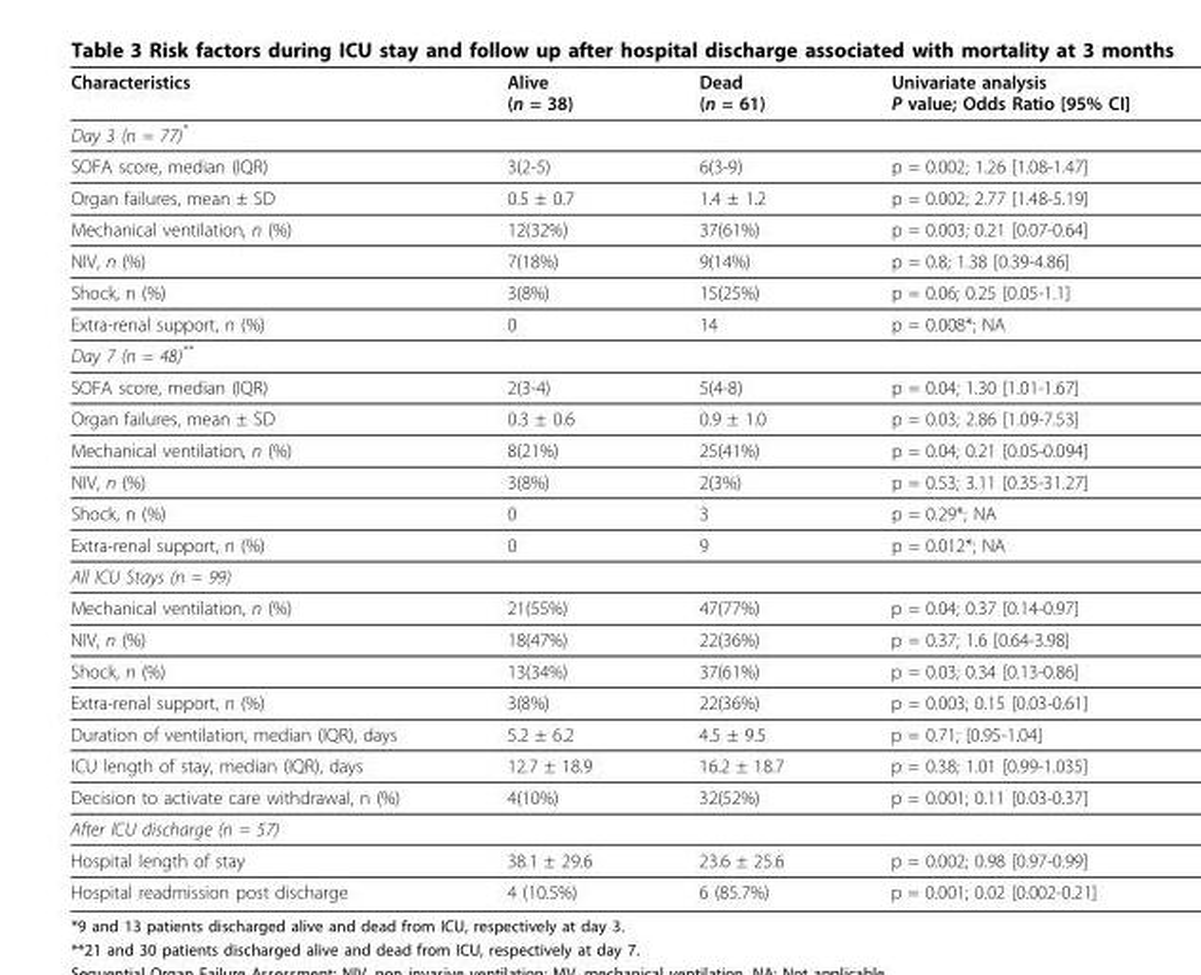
<table><thead><tr><td>Characteristics</td><td>Alive (n = 38)</td><td>Dead (n = 61)</td><td>Univariate analysis P value; Odds Ratio [95% CI]</td></tr></thead><tbody><tr><td colspan="4">Day 3 (n = 77)*</td></tr><tr><td>SOFA score, median (IQR)</td><td>3(2-5)</td><td>6(3-9)</td><td>p = 0.002; 1.26 [1.08-1.47]</td></tr><tr><td>Organ failures, mean ± SD</td><td>0.5 ± 0.7</td><td>1.4 ± 1.2</td><td>p = 0.002; 2.77 [1.48-5.19]</td></tr><tr><td>Mechanical ventilation, n (%)</td><td>12(32%)</td><td>37(61%)</td><td>p = 0.003; 0.21 [0.07-0.64]</td></tr><tr><td>NIV, n (%)</td><td>7(18%)</td><td>9(14%)</td><td>p = 0.8; 1.38 [0.39-4.86]</td></tr><tr><td>Shock, n (%)</td><td>3(8%)</td><td>15(25%)</td><td>p = 0.06; 0.25 [0.05-1.1]</td></tr><tr><td>Extra-renal support, n (%)</td><td>0</td><td>14</td><td>p = 0.008*; NA</td></tr><tr><td colspan="4">Day 7 (n = 48)**</td></tr><tr><td>SOFA score, median (IQR)</td><td>2(3-4)</td><td>5(4-8)</td><td>p = 0.04; 1.30 [1.01-1.67]</td></tr><tr><td>Organ failures, mean ± SD</td><td>0.3 ± 0.6</td><td>0.9 ± 1.0</td><td>p = 0.03; 2.86 [1.09-7.53]</td></tr><tr><td>Mechanical ventilation, n (%)</td><td>8(21%)</td><td>25(41%)</td><td>p = 0.04; 0.21 [0.05-0.094]</td></tr><tr><td>NIV, n (%)</td><td>3(8%)</td><td>2(3%)</td><td>p = 0.53; 3.11 [0.35-31.27]</td></tr><tr><td>Shock, n (%)</td><td>0</td><td>3</td><td>p = 0.29*; NA</td></tr><tr><td>Extra-renal support, n (%)</td><td>0</td><td>9</td><td>p = 0.012*; NA</td></tr><tr><td colspan="4">All ICU Stays (n = 99)</td></tr><tr><td>Mechanical ventilation, n (%)</td><td>21(55%)</td><td>47(77%)</td><td>p = 0.04; 0.37 [0.14-0.97]</td></tr><tr><td>NIV, n (%)</td><td>18(47%)</td><td>22(36%)</td><td>p = 0.37; 1.6 [0.64-3.98]</td></tr><tr><td>Shock, n (%)</td><td>13(34%)</td><td>37(61%)</td><td>p = 0.03; 0.34 [0.13-0.86]</td></tr><tr><td>Extra-renal support, n (%)</td><td>3(8%)</td><td>22(36%)</td><td>p = 0.003; 0.15 [0.03-0.61]</td></tr><tr><td>Duration of ventilation, median (IQR), days</td><td>5.2 ± 6.2</td><td>4.5 ± 9.5</td><td>p = 0.71; [0.95-1.04]</td></tr><tr><td>ICU length of stay, median (IQR), days</td><td>12.7 ± 18.9</td><td>16.2 ± 18.7</td><td>p = 0.38; 1.01 [0.99-1.035]</td></tr><tr><td>Decision to activate care withdrawal, n (%)</td><td>4(10%)</td><td>32(52%)</td><td>p = 0.001; 0.11 [0.03-0.37]</td></tr><tr><td colspan="4">After ICU discharge (n = 57)</td></tr><tr><td>Hospital length of stay</td><td>38.1 ± 29.6</td><td>23.6 ± 25.6</td><td>p = 0.002; 0.98 [0.97-0.99]</td></tr><tr><td>Hospital readmission post discharge</td><td>4 (10.5%)</td><td>6 (85.7%)</td><td>p = 0.001; 0.02 [0.002-0.21]</td></tr></tbody></table>